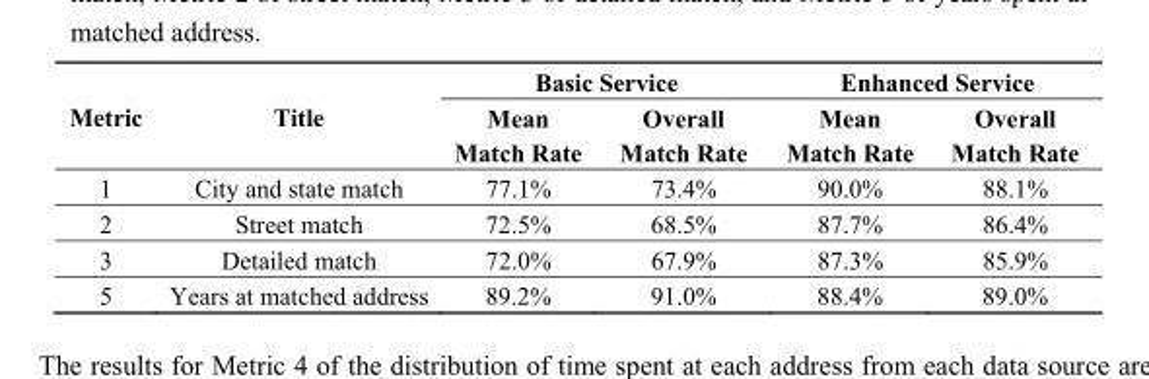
<table><thead><tr><td rowspan="2">Metric</td><td rowspan="2">Title</td><td colspan="2">Basic Service</td><td colspan="2">Enhanced Service</td></tr><tr><td>Mean Match Rate</td><td>Overall Match Rate</td><td>Mean Match Rate</td><td>Overall Match Rate</td></tr></thead><tbody><tr><td>1</td><td>City and state match</td><td>77.1%</td><td>73.4%</td><td>90.0%</td><td>88.1%</td></tr><tr><td>2</td><td>Street match</td><td>72.5%</td><td>68.5%</td><td>87.7%</td><td>86.4%</td></tr><tr><td>3</td><td>Detailed match</td><td>72.0%</td><td>67.9%</td><td>87.3%</td><td>85.9%</td></tr><tr><td>5</td><td>Years at matched address</td><td>89.2%</td><td>91.0%</td><td>88.4%</td><td>89.0%</td></tr></tbody></table>